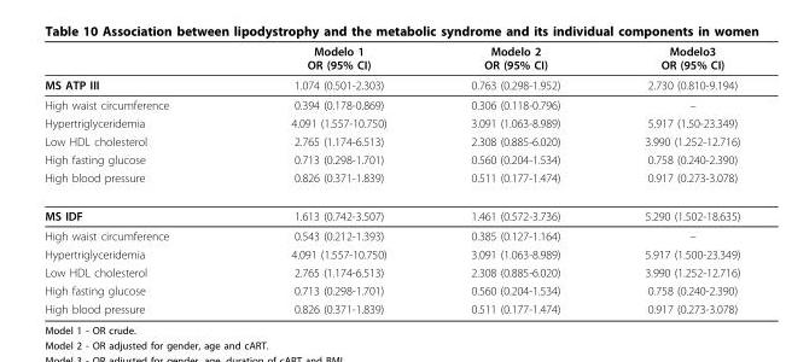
<table><thead><tr><td></td><td>Modelo 1 OR (95% CI)</td><td>Modelo 2 OR (95% CI)</td><td>Modelo3 OR (95% CI)</td></tr></thead><tbody><tr><td>MS ATP III</td><td>1.074 (0.501-2.303)</td><td>0.763 (0.298-1.952)</td><td>2.730 (0.810-9.194)</td></tr><tr><td>High waist circumference</td><td>0.394 (0.178-0.869)</td><td>0.306 (0.118-0.796)</td><td>–</td></tr><tr><td>Hypertriglyceridemia</td><td>4.091 (1.557-10.750)</td><td>3.091 (1.063-8.989)</td><td>5.917 (1.50-23.349)</td></tr><tr><td>Low HDL cholesterol</td><td>2.765 (1.174-6.513)</td><td>2.308 (0.885-6.020)</td><td>3.990 (1.252-12.716)</td></tr><tr><td>High fasting glucose</td><td>0.713 (0.298-1.701)</td><td>0.560 (0.204-1.534)</td><td>0.758 (0.240-2.390)</td></tr><tr><td>High blood pressure</td><td>0.826 (0.371-1.839)</td><td>0.511 (0.177-1.474)</td><td>0.917 (0.273-3.078)</td></tr><tr><td>MS IDF</td><td>1.613 (0.742-3.507)</td><td>1.461 (0.572-3.736)</td><td>5.290 (1.502-18.635)</td></tr><tr><td>High waist circumference</td><td>0.543 (0.212-1.393)</td><td>0.385 (0.127-1.164)</td><td>–</td></tr><tr><td>Hypertriglyceridemia</td><td>4.091 (1.557-10.750)</td><td>3.091 (1.063-8.989)</td><td>5.917 (1.500-23.349)</td></tr><tr><td>Low HDL cholesterol</td><td>2.765 (1.174-6.513)</td><td>2.308 (0.885-6.020)</td><td>3.990 (1.252-12.716)</td></tr><tr><td>High fasting glucose</td><td>0.713 (0.298-1.701)</td><td>0.560 (0.204-1.534)</td><td>0.758 (0.240-2.390)</td></tr><tr><td>High blood pressure</td><td>0.826 (0.371-1.839)</td><td>0.511 (0.177-1.474)</td><td>0.917 (0.273-3.078)</td></tr></tbody></table>